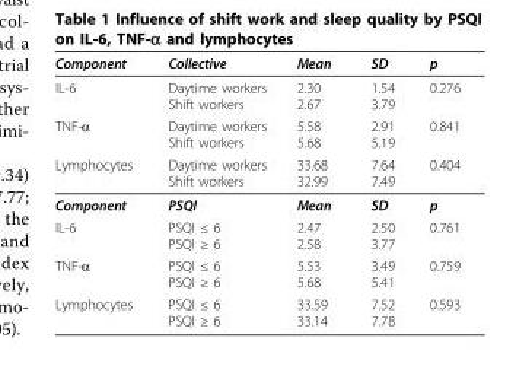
<table><thead><tr><td>Component</td><td>Collective</td><td>Mean</td><td>SD</td><td>p</td></tr></thead><tbody><tr><td>IL-6</td><td>Daytime workers Shift workers</td><td>2.30 2.67</td><td>1.54 3.79</td><td>0.276</td></tr><tr><td>TNF-α</td><td>Daytime workers Shift workers</td><td>5.58 5.68</td><td>2.91 5.19</td><td>0.841</td></tr><tr><td>Lymphocytes</td><td>Daytime workers Shift workers</td><td>33.68 32.99</td><td>7.64 7.49</td><td>0.404</td></tr><tr><td>Component</td><td>PSQI</td><td>Mean</td><td>SD</td><td>p</td></tr><tr><td>IL-6</td><td>PSQI ≤ 6 PSQI ≥ 6</td><td>2.47 2.58</td><td>2.50 3.77</td><td>0.761</td></tr><tr><td>TNF-α</td><td>PSQI ≤ 6 PSQI ≥ 6</td><td>5.53 5.68</td><td>3.49 5.41</td><td>0.759</td></tr><tr><td>Lymphocytes</td><td>PSQI ≤ 6 PSQI ≥ 6</td><td>33.59 33.14</td><td>7.52 7.78</td><td>0.593</td></tr></tbody></table>